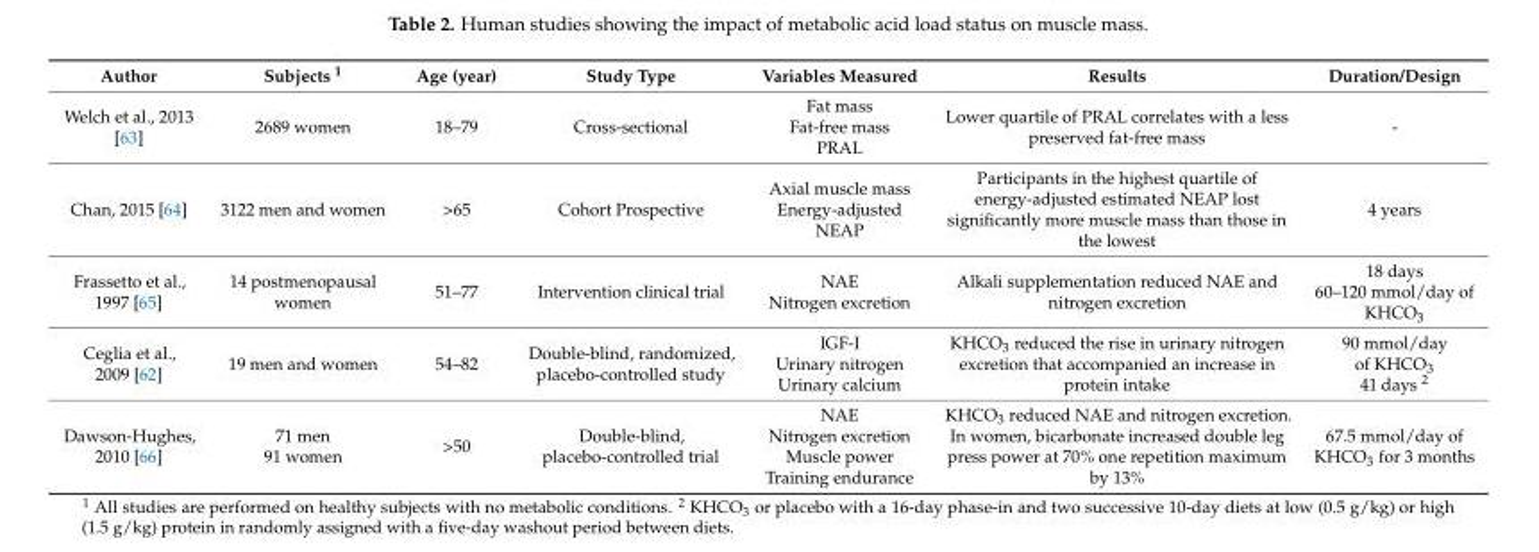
<table><thead><tr><td>Author</td><td>Subjects <sup>1</sup></td><td>Age (year)</td><td>Study Type</td><td>Variables Measured</td><td>Results</td><td>Duration/Design</td></tr></thead><tbody><tr><td>Welch et al., 2013 [63]</td><td>2689 women</td><td>18–79</td><td>Cross-sectional</td><td>Fat mass Fat-free mass PRAL</td><td>Lower quartile of PRAL correlates with a less preserved fat-free mass</td><td>-</td></tr><tr><td>Chan, 2015 [64]</td><td>3122 men and women</td><td>&gt;65</td><td>Cohort Prospective</td><td>Axial muscle mass Energy-adjusted NEAP</td><td>Participants in the highest quartile of energy-adjusted estimated NEAP lost significantly more muscle mass than those in the lowest</td><td>4 years</td></tr><tr><td>Frassetto et al., 1997 [65]</td><td>14 postmenopausal women</td><td>51–77</td><td>Intervention clinical trial</td><td>NAE Nitrogen excretion</td><td>Alkali supplementation reduced NAE and nitrogen excretion</td><td>18 days 60–120 mmol/day of KHCO<sub>3</sub></td></tr><tr><td>Ceglia et al., 2009 [62]</td><td>19 men and women</td><td>54–82</td><td>Double-blind, randomized, placebo-controlled study</td><td>IGF-I Urinary nitrogen Urinary calcium</td><td>KHCO<sub>3</sub> reduced the rise in urinary nitrogen excretion that accompanied an increase in protein intake</td><td>90 mmol/day of KHCO<sub>3</sub> 41 days <sup>2</sup></td></tr><tr><td>Dawson-Hughes, 2010 [66]</td><td>71 men 91 women</td><td>&gt;50</td><td>Double-blind, placebo-controlled trial</td><td>NAE Nitrogen excretion Muscle power Training endurance</td><td>KHCO<sub>3</sub> reduced NAE and nitrogen excretion. In women, bicarbonate increased double leg press power at 70% one repetition maximum by 13%</td><td>67.5 mmol/day of KHCO<sub>3</sub> for 3 months</td></tr></tbody></table>